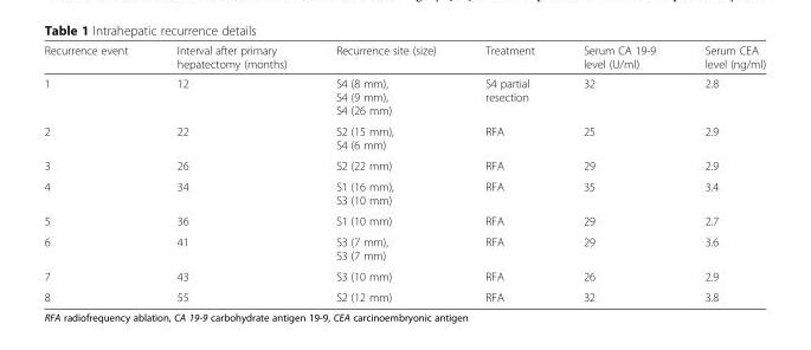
<table><thead><tr><td>Recurrence event</td><td>Interval after primary hepatectomy (months)</td><td>Recurrence site (size)</td><td>Treatment</td><td>Serum CA 19-9 level (U/ml)</td><td>Serum CEA level (ng/ml)</td></tr></thead><tbody><tr><td>1</td><td>12</td><td>S4 (8 mm), S4 (9 mm), S4 (26 mm)</td><td>S4 partial resection</td><td>32</td><td>2.8</td></tr><tr><td>2</td><td>22</td><td>S2 (15 mm), S4 (6 mm)</td><td>RFA</td><td>25</td><td>2.9</td></tr><tr><td>3</td><td>26</td><td>S2 (22 mm)</td><td>RFA</td><td>29</td><td>2.9</td></tr><tr><td>4</td><td>34</td><td>S1 (16 mm), S3 (10 mm)</td><td>RFA</td><td>35</td><td>3.4</td></tr><tr><td>5</td><td>36</td><td>S1 (10 mm)</td><td>RFA</td><td>29</td><td>2.7</td></tr><tr><td>6</td><td>41</td><td>S3 (7 mm), S3 (7 mm)</td><td>RFA</td><td>29</td><td>3.6</td></tr><tr><td>7</td><td>43</td><td>S3 (10 mm)</td><td>RFA</td><td>26</td><td>2.9</td></tr><tr><td>8</td><td>55</td><td>S2 (12 mm)</td><td>RFA</td><td>32</td><td>3.8</td></tr></tbody></table>